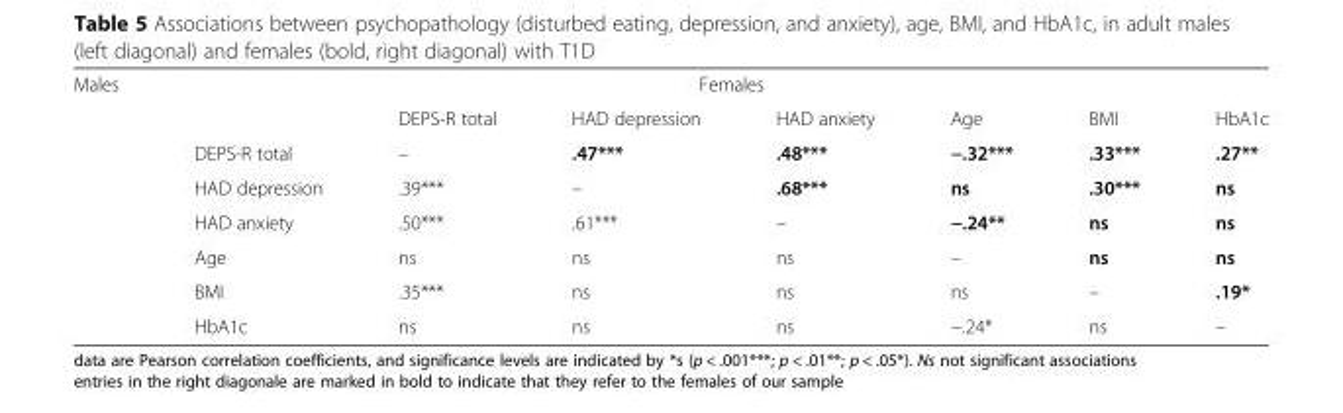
<table><tbody><tr><td rowspan="8">Males</td><td colspan="7">Females</td></tr><tr><td></td><td>DEPS-R total</td><td>HAD depression</td><td>HAD anxiety</td><td>Age</td><td>BMI</td><td>HbA1c</td></tr><tr><td>DEPS-R total</td><td>–</td><td>.47***</td><td>.48***</td><td>−.32***</td><td>.33***</td><td>.27**</td></tr><tr><td>HAD depression</td><td>.39***</td><td>–</td><td>.68***</td><td>ns</td><td>.30***</td><td>ns</td></tr><tr><td>HAD anxiety</td><td>.50***</td><td>.61***</td><td>–</td><td>−.24**</td><td>ns</td><td>ns</td></tr><tr><td>Age</td><td>ns</td><td>ns</td><td>ns</td><td>–</td><td>ns</td><td>ns</td></tr><tr><td>BMI</td><td>.35***</td><td>ns</td><td>ns</td><td>ns</td><td>–</td><td>.19*</td></tr><tr><td>HbA1c</td><td>ns</td><td>ns</td><td>ns</td><td>−.24*</td><td>ns</td><td>–</td></tr></tbody></table>